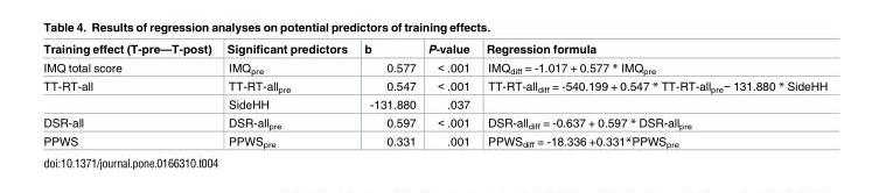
<table><thead><tr><td>Training effect (T-pre—T-post)</td><td>Significant predictors</td><td>b</td><td>P-value</td><td>Regression formula</td></tr></thead><tbody><tr><td>IMQ total score</td><td>IMQ<sub>pre</sub></td><td>0.577</td><td>&lt; .001</td><td>IMQ<sub>diff</sub> = -1.017 + 0.577 * IMQ<sub>pre</sub></td></tr><tr><td rowspan="2">TT-RT-all</td><td>TT-RT-all<sub>pre</sub></td><td>0.547</td><td>&lt; .001</td><td>TT-RT-all<sub>diff</sub> = -540.199 + 0.547 * TT-RT-all<sub>pre</sub>− 131.880 * SideHH</td></tr><tr><td>SideHH</td><td>-131.880</td><td>.037</td><td></td></tr><tr><td>DSR-all</td><td>DSR-all<sub>pre</sub></td><td>0.597</td><td>&lt; .001</td><td>DSR-all<sub>diff</sub> = -0.637 + 0.597 * DSR-all<sub>pre</sub></td></tr><tr><td>PPWS</td><td>PPWS<sub>pre</sub></td><td>0.331</td><td>.001</td><td>PPWS<sub>diff</sub> = -18.336 +0.331*PPWS<sub>pre</sub></td></tr></tbody></table>